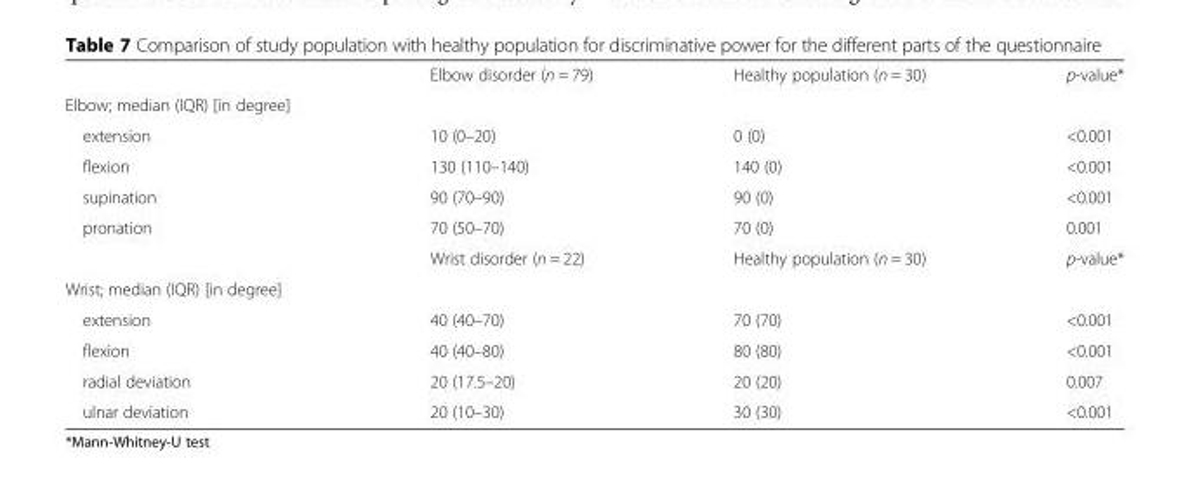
<table><thead><tr><td></td><td>Elbow disorder (n = 79)</td><td>Healthy population (n = 30)</td><td>p-value*</td></tr></thead><tbody><tr><td colspan="4">Elbow; median (IQR) [in degree]</td></tr><tr><td>extension</td><td>10 (0–20)</td><td>0 (0)</td><td>&lt;0.001</td></tr><tr><td>flexion</td><td>130 (110–140)</td><td>140 (0)</td><td>&lt;0.001</td></tr><tr><td>supination</td><td>90 (70–90)</td><td>90 (0)</td><td>&lt;0.001</td></tr><tr><td rowspan="2">pronation</td><td>70 (50–70)</td><td>70 (0)</td><td>0.001</td></tr><tr><td>Wrist disorder (n = 22)</td><td>Healthy population (n = 30)</td><td>p-value*</td></tr><tr><td colspan="4">Wrist; median (IQR) [in degree]</td></tr><tr><td>extension</td><td>40 (40–70)</td><td>70 (70)</td><td>&lt;0.001</td></tr><tr><td>flexion</td><td>40 (40–80)</td><td>80 (80)</td><td>&lt;0.001</td></tr><tr><td>radial deviation</td><td>20 (17.5–20)</td><td>20 (20)</td><td>0.007</td></tr><tr><td>ulnar deviation</td><td>20 (10–30)</td><td>30 (30)</td><td>&lt;0.001</td></tr></tbody></table>